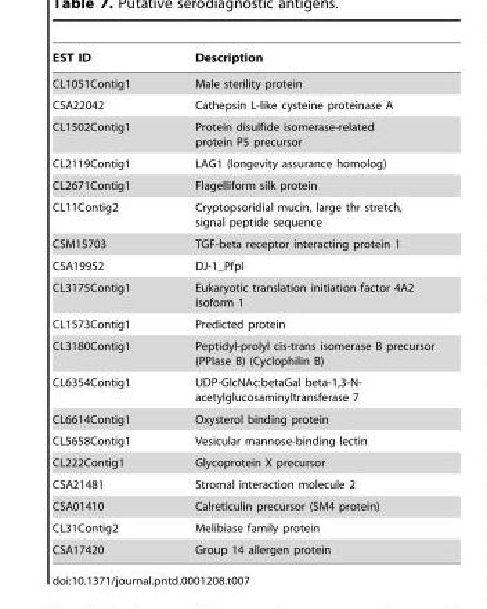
<table><thead><tr><td>EST ID</td><td>Description</td></tr></thead><tbody><tr><td>CL1051Contig1</td><td>Male sterility protein</td></tr><tr><td>CSA22042</td><td>Cathepsin L-like cysteine proteinase A</td></tr><tr><td>CL1502Contig1</td><td>Protein disulfide isomerase-related protein P5 precursor</td></tr><tr><td>CL2119Contig1</td><td>LAG1 (longevity assurance homolog)</td></tr><tr><td>CL2671Contig1</td><td>Flagelliform silk protein</td></tr><tr><td>CL11Contig2</td><td>Cryptopsoridial mucin, large thr stretch, signal peptide sequence</td></tr><tr><td>CSM15703</td><td>TGF-beta receptor interacting protein 1</td></tr><tr><td>CSA19952</td><td>DJ-1_PfpI</td></tr><tr><td>CL3175Contig1</td><td>Eukaryotic translation initiation factor 4A2 isoform 1</td></tr><tr><td>CL1573Contig1</td><td>Predicted protein</td></tr><tr><td>CL3180Contig1</td><td>Peptidyl-prolyl cis-trans isomerase B precursor (PPIase B) (Cyclophilin B)</td></tr><tr><td>CL6354Contig1</td><td>UDP-GlcNAc:betaGal beta-1,3-N- acetylglucosaminyltransferase 7</td></tr><tr><td>CL6614Contig1</td><td>Oxysterol binding protein</td></tr><tr><td>CL5658Contig1</td><td>Vesicular mannose-binding lectin</td></tr><tr><td>CL222Contig1</td><td>Glycoprotein X precursor</td></tr><tr><td>CSA21481</td><td>Stromal interaction molecule 2</td></tr><tr><td>CSA01410</td><td>Calreticulin precursor (SM4 protein)</td></tr><tr><td>CL31Contig2</td><td>Melibiase family protein</td></tr><tr><td>CSA17420</td><td>Group 14 allergen protein</td></tr></tbody></table>